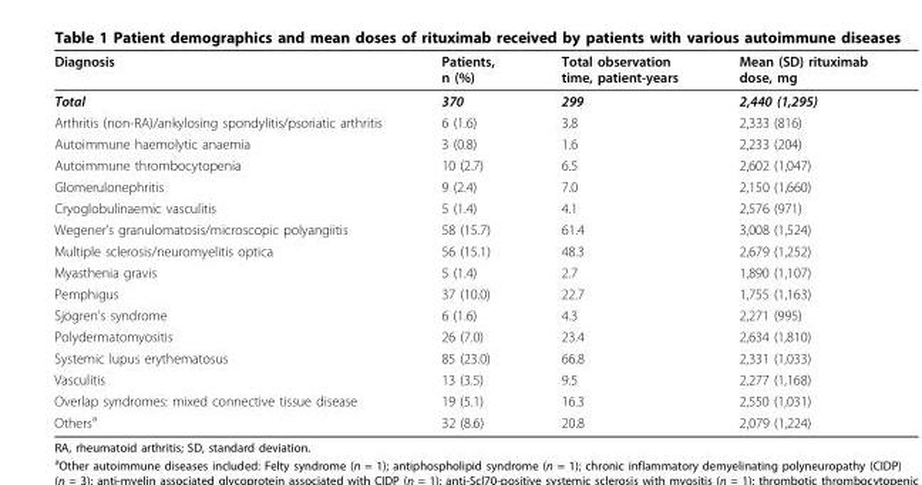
<table><thead><tr><td>Diagnosis</td><td>Patients, n (%)</td><td>Total observation time, patient-years</td><td>Mean (SD) rituximab dose, mg</td></tr></thead><tbody><tr><td>Total</td><td>370</td><td>299</td><td>2,440 (1,295)</td></tr><tr><td>Arthritis (non-RA)/ankylosing spondylitis/psoriatic arthritis</td><td>6 (1.6)</td><td>3.8</td><td>2,333 (816)</td></tr><tr><td>Autoimmune haemolytic anaemia</td><td>3 (0.8)</td><td>1.6</td><td>2,233 (204)</td></tr><tr><td>Autoimmune thrombocytopenia</td><td>10 (2.7)</td><td>6.5</td><td>2,602 (1,047)</td></tr><tr><td>Glomerulonephritis</td><td>9 (2.4)</td><td>7.0</td><td>2,150 (1,660)</td></tr><tr><td>Cryoglobulinaemic vasculitis</td><td>5 (1.4)</td><td>4.1</td><td>2,576 (971)</td></tr><tr><td>Wegener’s granulomatosis/microscopic polyangiitis</td><td>58 (15.7)</td><td>61.4</td><td>3,008 (1,524)</td></tr><tr><td>Multiple sclerosis/neuromyelitis optica</td><td>56 (15.1)</td><td>48.3</td><td>2,679 (1,252)</td></tr><tr><td>Myasthenia gravis</td><td>5 (1.4)</td><td>2.7</td><td>1,890 (1,107)</td></tr><tr><td>Pemphigus</td><td>37 (10.0)</td><td>22.7</td><td>1,755 (1,163)</td></tr><tr><td>Sjögren’s syndrome</td><td>6 (1.6)</td><td>4.3</td><td>2,271 (995)</td></tr><tr><td>Polydermatomyositis</td><td>26 (7.0)</td><td>23.4</td><td>2,634 (1,810)</td></tr><tr><td>Systemic lupus erythematosus</td><td>85 (23.0)</td><td>66.8</td><td>2,331 (1,033)</td></tr><tr><td>Vasculitis</td><td>13 (3.5)</td><td>9.5</td><td>2,277 (1,168)</td></tr><tr><td>Overlap syndromes: mixed connective tissue disease</td><td>19 (5.1)</td><td>16.3</td><td>2,550 (1,031)</td></tr><tr><td>Others<sup>a</sup></td><td>32 (8.6)</td><td>20.8</td><td>2,079 (1,224)</td></tr></tbody></table>